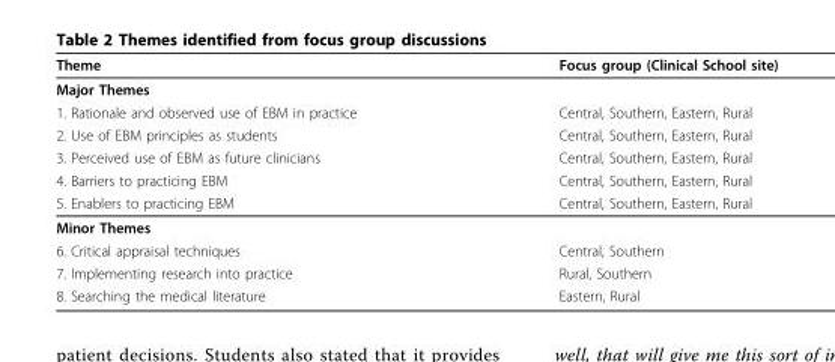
<table><thead><tr><td>Theme</td><td>Focus group (Clinical School site)</td></tr></thead><tbody><tr><td colspan="2">Major Themes</td></tr><tr><td>1. Rationale and observed use of EBM in practice</td><td>Central, Southern, Eastern, Rural</td></tr><tr><td>2. Use of EBM principles as students</td><td>Central, Southern, Eastern, Rural</td></tr><tr><td>3. Perceived use of EBM as future clinicians</td><td>Central, Southern, Eastern, Rural</td></tr><tr><td>4. Barriers to practicing EBM</td><td>Central, Southern, Eastern, Rural</td></tr><tr><td>5. Enablers to practicing EBM</td><td>Central, Southern, Eastern, Rural</td></tr><tr><td colspan="2">Minor Themes</td></tr><tr><td>6. Critical appraisal techniques</td><td>Central, Southern</td></tr><tr><td>7. Implementing research into practice</td><td>Rural, Southern</td></tr><tr><td>8. Searching the medical literature</td><td>Eastern, Rural</td></tr></tbody></table>